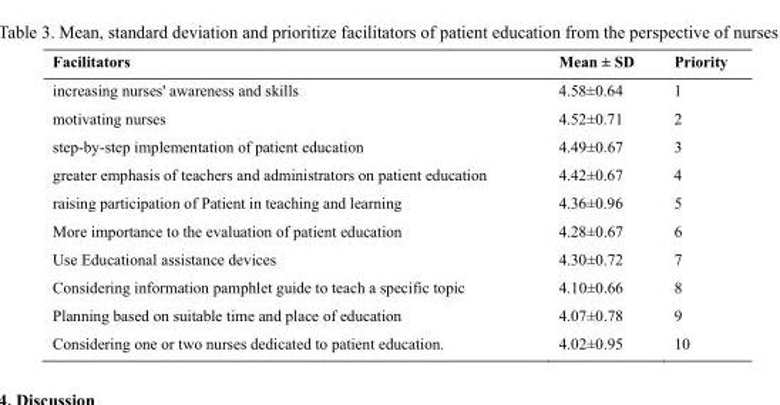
<table><thead><tr><td>Facilitators</td><td>Mean ± SD</td><td>Priority</td></tr></thead><tbody><tr><td>increasing nurses&#x27; awareness and skills</td><td>4.58±0.64</td><td>1</td></tr><tr><td>motivating nurses</td><td>4.52±0.71</td><td>2</td></tr><tr><td>step-by-step implementation of patient education</td><td>4.49±0.67</td><td>3</td></tr><tr><td>greater emphasis of teachers and administrators on patient education</td><td>4.42±0.67</td><td>4</td></tr><tr><td>raising participation of Patient in teaching and learning</td><td>4.36±0.96</td><td>5</td></tr><tr><td>More importance to the evaluation of patient education</td><td>4.28±0.67</td><td>6</td></tr><tr><td>Use Educational assistance devices</td><td>4.30±0.72</td><td>7</td></tr><tr><td>Considering information pamphlet guide to teach a specific topic</td><td>4.10±0.66</td><td>8</td></tr><tr><td>Planning based on suitable time and place of education</td><td>4.07±0.78</td><td>9</td></tr><tr><td>Considering one or two nurses dedicated to patient education.</td><td>4.02±0.95</td><td>10</td></tr></tbody></table>